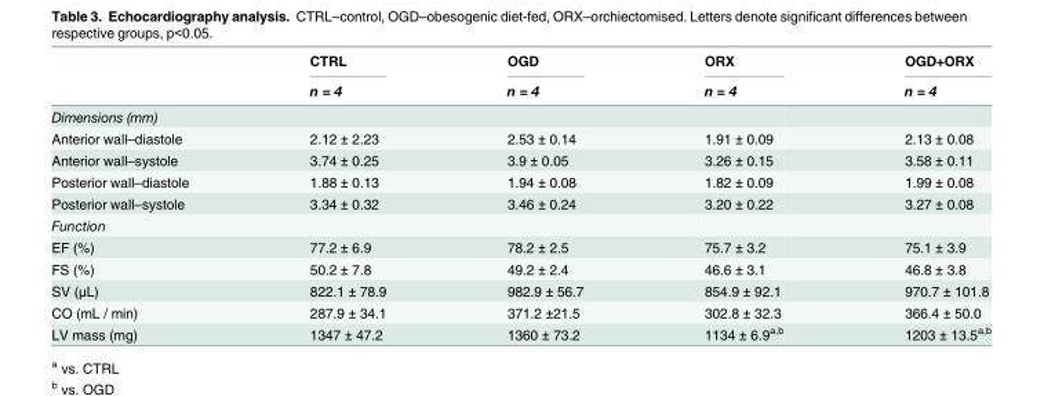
<table><thead><tr><td rowspan="2"></td><td rowspan="2">CTRL n = 4</td><td rowspan="2">OGD n = 4</td><td rowspan="2">ORX n = 4</td><td rowspan="2">OGD+ORX n = 4</td></tr><tr></tr></thead><tbody><tr><td colspan="5">Dimensions (mm)</td></tr><tr><td>Anterior wall–diastole</td><td>2.12 ± 2.23</td><td>2.53 ± 0.14</td><td>1.91 ± 0.09</td><td>2.13 ± 0.08</td></tr><tr><td>Anterior wall–systole</td><td>3.74 ± 0.25</td><td>3.9 ± 0.05</td><td>3.26 ± 0.15</td><td>3.58 ± 0.11</td></tr><tr><td>Posterior wall–diastole</td><td>1.88 ± 0.13</td><td>1.94 ± 0.08</td><td>1.82 ± 0.09</td><td>1.99 ± 0.08</td></tr><tr><td>Posterior wall–systole</td><td>3.34 ± 0.32</td><td>3.46 ± 0.24</td><td>3.20 ± 0.22</td><td>3.27 ± 0.08</td></tr><tr><td colspan="5">Function</td></tr><tr><td>EF (%)</td><td>77.2 ± 6.9</td><td>78.2 ± 2.5</td><td>75.7 ± 3.2</td><td>75.1 ± 3.9</td></tr><tr><td>FS (%)</td><td>50.2 ± 7.8</td><td>49.2 ± 2.4</td><td>46.6 ± 3.1</td><td>46.8 ± 3.8</td></tr><tr><td>SV (μL)</td><td>822.1 ± 78.9</td><td>982.9 ± 56.7</td><td>854.9 ± 92.1</td><td>970.7 ± 101.8</td></tr><tr><td>CO (mL / min)</td><td>287.9 ± 34.1</td><td>371.2 ±21.5</td><td>302.8 ± 32.3</td><td>366.4 ± 50.0</td></tr><tr><td>LV mass (mg)</td><td>1347 ± 47.2</td><td>1360 ± 73.2</td><td>1134 ± 6.9<sup>a,b</sup></td><td>1203 ± 13.5<sup>a,b</sup></td></tr></tbody></table>